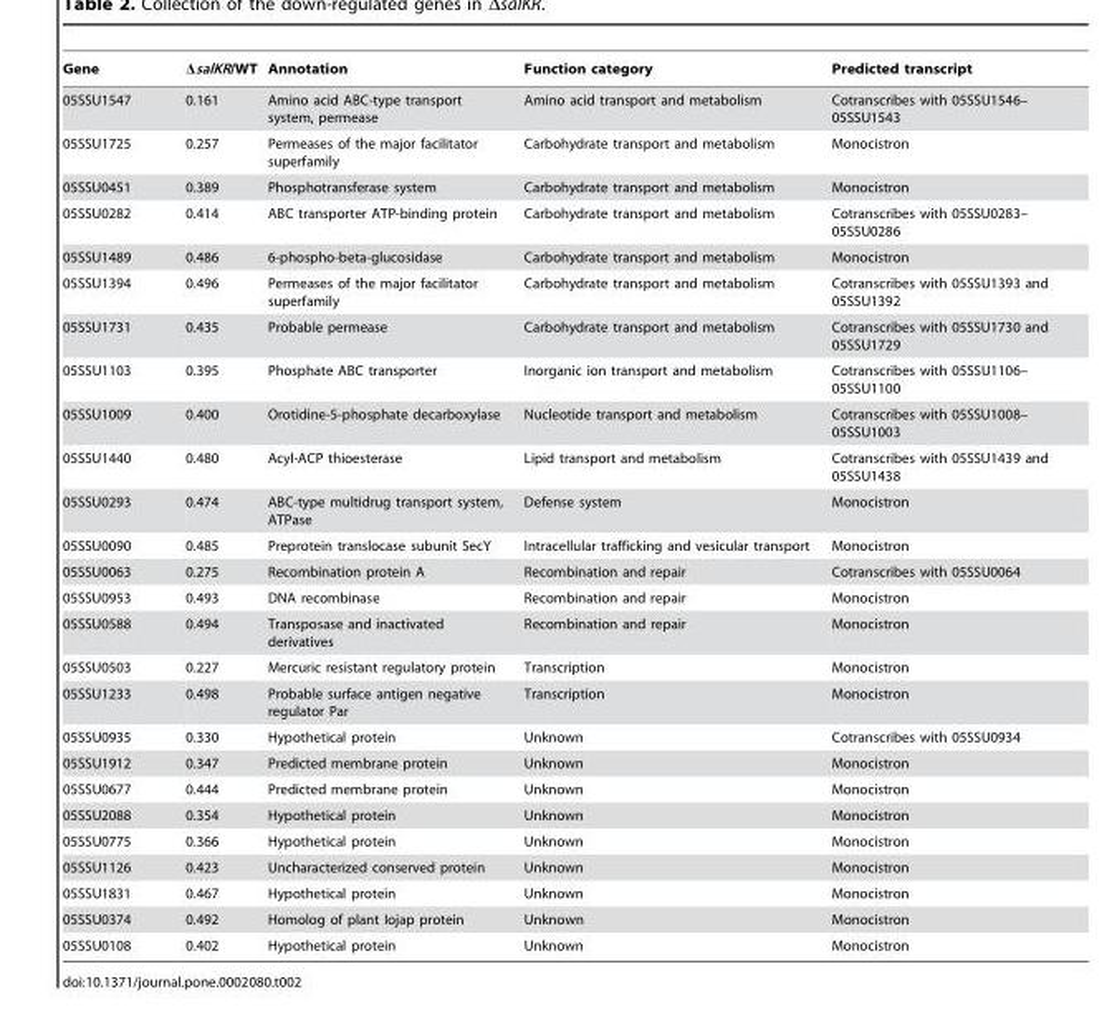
<table><thead><tr><td>Gene</td><td>ΔsalKR/WT</td><td>Annotation</td><td>Function category</td><td>Predicted transcript</td></tr></thead><tbody><tr><td>05SSU1547</td><td>0.161</td><td>Amino acid ABC-type transport system, permease</td><td>Amino acid transport and metabolism</td><td>Cotranscribes with 05SSU1546– 05SSU1543</td></tr><tr><td>05SSU1725</td><td>0.257</td><td>Permeases of the major facilitator superfamily</td><td>Carbohydrate transport and metabolism</td><td>Monocistron</td></tr><tr><td>05SSU0451</td><td>0.389</td><td>Phosphotransferase system</td><td>Carbohydrate transport and metabolism</td><td>Monocistron</td></tr><tr><td>05SSU0282</td><td>0.414</td><td>ABC transporter ATP-binding protein</td><td>Carbohydrate transport and metabolism</td><td>Cotranscribes with 05SSU0283– 05SSU0286</td></tr><tr><td>05SSU1489</td><td>0.486</td><td>6-phospho-beta-glucosidase</td><td>Carbohydrate transport and metabolism</td><td>Monocistron</td></tr><tr><td>05SSU1394</td><td>0.496</td><td>Permeases of the major facilitator superfamily</td><td>Carbohydrate transport and metabolism</td><td>Cotranscribes with 05SSU1393 and 05SSU1392</td></tr><tr><td>05SSU1731</td><td>0.435</td><td>Probable permease</td><td>Carbohydrate transport and metabolism</td><td>Cotranscribes with 05SSU1730 and 05SSU1729</td></tr><tr><td>05SSU1103</td><td>0.395</td><td>Phosphate ABC transporter</td><td>Inorganic ion transport and metabolism</td><td>Cotranscribes with 05SSU1106– 05SSU1100</td></tr><tr><td>05SSU1009</td><td>0.400</td><td>Orotidine-5-phosphate decarboxylase</td><td>Nucleotide transport and metabolism</td><td>Cotranscribes with 05SSU1008– 05SSU1003</td></tr><tr><td>05SSU1440</td><td>0.480</td><td>Acyl-ACP thioesterase</td><td>Lipid transport and metabolism</td><td>Cotranscribes with 05SSU1439 and 05SSU1438</td></tr><tr><td>05SSU0293</td><td>0.474</td><td>ABC-type multidrug transport system, ATPase</td><td>Defense system</td><td>Monocistron</td></tr><tr><td>05SSU0090</td><td>0.485</td><td>Preprotein translocase subunit SecY</td><td>Intracellular trafficking and vesicular transport</td><td>Monocistron</td></tr><tr><td>05SSU0063</td><td>0.275</td><td>Recombination protein A</td><td>Recombination and repair</td><td>Cotranscribes with 05SSU0064</td></tr><tr><td>05SSU0953</td><td>0.493</td><td>DNA recombinase</td><td>Recombination and repair</td><td>Monocistron</td></tr><tr><td>05SSU0588</td><td>0.494</td><td>Transposase and inactivated derivatives</td><td>Recombination and repair</td><td>Monocistron</td></tr><tr><td>05SSU0503</td><td>0.227</td><td>Mercuric resistant regulatory protein</td><td>Transcription</td><td>Monocistron</td></tr><tr><td>05SSU1233</td><td>0.498</td><td>Probable surface antigen negative regulator Par</td><td>Transcription</td><td>Monocistron</td></tr><tr><td>05SSU0935</td><td>0.330</td><td>Hypothetical protein</td><td>Unknown</td><td>Cotranscribes with 05SSU0934</td></tr><tr><td>05SSU1912</td><td>0.347</td><td>Predicted membrane protein</td><td>Unknown</td><td>Monocistron</td></tr><tr><td>05SSU0677</td><td>0.444</td><td>Predicted membrane protein</td><td>Unknown</td><td>Monocistron</td></tr><tr><td>05SSU2088</td><td>0.354</td><td>Hypothetical protein</td><td>Unknown</td><td>Monocistron</td></tr><tr><td>05SSU0775</td><td>0.366</td><td>Hypothetical protein</td><td>Unknown</td><td>Monocistron</td></tr><tr><td>05SSU1126</td><td>0.423</td><td>Uncharacterized conserved protein</td><td>Unknown</td><td>Monocistron</td></tr><tr><td>05SSU1831</td><td>0.467</td><td>Hypothetical protein</td><td>Unknown</td><td>Monocistron</td></tr><tr><td>05SSU0374</td><td>0.492</td><td>Homolog of plant Iojap protein</td><td>Unknown</td><td>Monocistron</td></tr><tr><td>05SSU0108</td><td>0.402</td><td>Hypothetical protein</td><td>Unknown</td><td>Monocistron</td></tr></tbody></table>